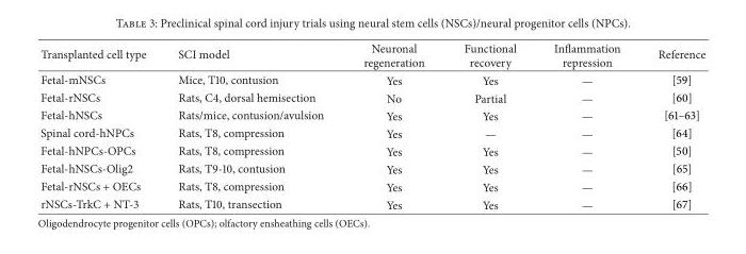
<table><thead><tr><td>Transplanted cell type</td><td>SCI model</td><td>Neuronal regeneration</td><td>Functional recovery</td><td>Inflammation repression</td><td>Reference</td></tr></thead><tbody><tr><td>Fetal-mNSCs</td><td>Mice, T10, contusion</td><td>Yes</td><td>Yes</td><td>—</td><td>[59]</td></tr><tr><td>Fetal-rNSCs</td><td>Rats, C4, dorsal hemisection</td><td>No</td><td>Partial</td><td>—</td><td>[60]</td></tr><tr><td>Fetal-hNSCs</td><td>Rats/mice, contusion/avulsion</td><td>Yes</td><td>Yes</td><td>—</td><td>[61–63]</td></tr><tr><td>Spinal cord-hNPCs</td><td>Rats, T8, compression</td><td>Yes</td><td>—</td><td>—</td><td>[64]</td></tr><tr><td>Fetal-hNPCs-OPCs</td><td>Rats, T8, compression</td><td>Yes</td><td>Yes</td><td>—</td><td>[50]</td></tr><tr><td>Fetal-hNSCs-Olig2</td><td>Rats, T9-10, contusion</td><td>Yes</td><td>Yes</td><td>—</td><td>[65]</td></tr><tr><td>Fetal-rNSCs + OECs</td><td>Rats, T8, compression</td><td>Yes</td><td>Yes</td><td>—</td><td>[66]</td></tr><tr><td>rNSCs-TrkC + NT-3</td><td>Rats, T10, transection</td><td>Yes</td><td>Yes</td><td>—</td><td>[67]</td></tr></tbody></table>